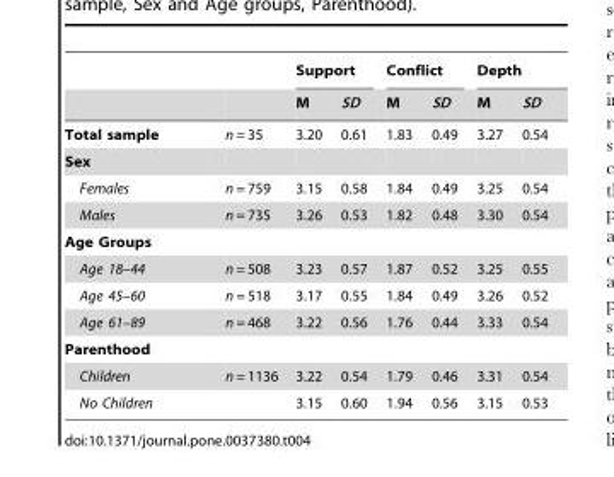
<table><thead><tr><td rowspan="2"></td><td rowspan="2"></td><td colspan="2">Support</td><td colspan="2">Conflict</td><td colspan="2">Depth</td></tr><tr><td>M</td><td>SD</td><td>M</td><td>SD</td><td>M</td><td>SD</td></tr></thead><tbody><tr><td>Total sample</td><td>n = 35</td><td>3.20</td><td>0.61</td><td>1.83</td><td>0.49</td><td>3.27</td><td>0.54</td></tr><tr><td colspan="8">Sex</td></tr><tr><td>Females</td><td>n = 759</td><td>3.15</td><td>0.58</td><td>1.84</td><td>0.49</td><td>3.25</td><td>0.54</td></tr><tr><td>Males</td><td>n = 735</td><td>3.26</td><td>0.53</td><td>1.82</td><td>0.48</td><td>3.30</td><td>0.54</td></tr><tr><td colspan="8">Age Groups</td></tr><tr><td>Age 18–44</td><td>n = 508</td><td>3.23</td><td>0.57</td><td>1.87</td><td>0.52</td><td>3.25</td><td>0.55</td></tr><tr><td>Age 45–60</td><td>n = 518</td><td>3.17</td><td>0.55</td><td>1.84</td><td>0.49</td><td>3.26</td><td>0.52</td></tr><tr><td>Age 61–89</td><td>n = 468</td><td>3.22</td><td>0.56</td><td>1.76</td><td>0.44</td><td>3.33</td><td>0.54</td></tr><tr><td colspan="8">Parenthood</td></tr><tr><td>Children</td><td>n = 1136</td><td>3.22</td><td>0.54</td><td>1.79</td><td>0.46</td><td>3.31</td><td>0.54</td></tr><tr><td>No Children</td><td></td><td>3.15</td><td>0.60</td><td>1.94</td><td>0.56</td><td>3.15</td><td>0.53</td></tr></tbody></table>